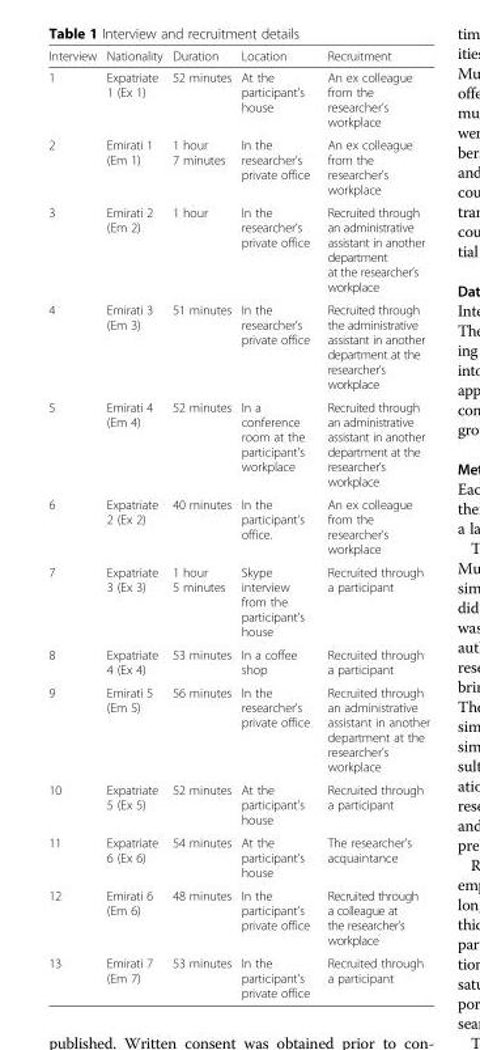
<table><thead><tr><td>Interview</td><td>Nationality</td><td>Duration</td><td>Location</td><td>Recruitment</td></tr></thead><tbody><tr><td>1</td><td>Expatriate 1 (Ex 1)</td><td>52 minutes</td><td>At the participant’s house</td><td>An ex colleague from the researcher’s workplace</td></tr><tr><td>2</td><td>Emirati 1 (Em 1)</td><td>1 hour 7 minutes</td><td>In the researcher’s private office</td><td>An ex colleague from the researcher’s workplace</td></tr><tr><td>3</td><td>Emirati 2 (Em 2)</td><td>1 hour</td><td>In the researcher’s private office</td><td>Recruited through an administrative assistant in another department at the researcher’s workplace</td></tr><tr><td>4</td><td>Emirati 3 (Em 3)</td><td>51 minutes</td><td>In the researcher’s private office</td><td>Recruited through the administrative assistant in another department at the researcher’s workplace</td></tr><tr><td>5</td><td>Emirati 4 (Em 4)</td><td>52 minutes</td><td>In a conference room at the participant’s workplace</td><td>Recruited through an administrative assistant in another department at the researcher’s workplace</td></tr><tr><td>6</td><td>Expatriate 2 (Ex 2)</td><td>40 minutes</td><td>In the participant’s office.</td><td>An ex colleague from the researcher’s workplace</td></tr><tr><td>7</td><td>Expatriate 3 (Ex 3)</td><td>1 hour 5 minutes</td><td>Skype interview from the participant’s house</td><td>Recruited through a participant</td></tr><tr><td>8</td><td>Expatriate 4 (Ex 4)</td><td>53 minutes</td><td>In a coffee shop</td><td>Recruited through a participant</td></tr><tr><td>9</td><td>Emirati 5 (Em 5)</td><td>56 minutes</td><td>In the researcher’s private office</td><td>Recruited through an administrative assistant in another department at the researcher’s workplace</td></tr><tr><td>10</td><td>Expatriate 5 (Ex 5)</td><td>52 minutes</td><td>At the participant’s house</td><td>Recruited through a participant</td></tr><tr><td>11</td><td>Expatriate 6 (Ex 6)</td><td>54 minutes</td><td>At the participant’s house</td><td>The researcher’s acquaintance</td></tr><tr><td>12</td><td>Emirati 6 (Em 6)</td><td>48 minutes</td><td>In the participant’s private office</td><td>Recruited through a colleague at the researcher’s workplace</td></tr><tr><td>13</td><td>Emirati 7 (Em 7)</td><td>53 minutes</td><td>In the participant’s private office</td><td>Recruited through a participant</td></tr></tbody></table>